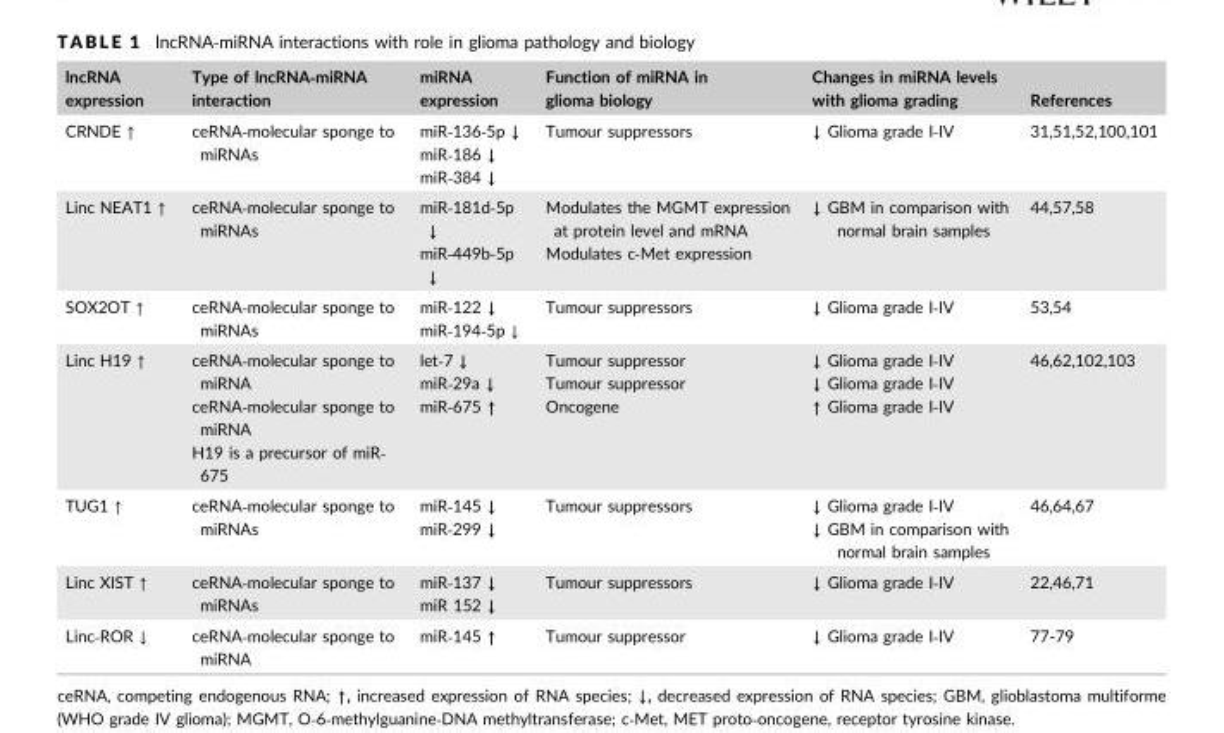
<table><thead><tr><td>lncRNA expression</td><td>Type of lncRNA‐miRNA interaction</td><td>miRNA expression</td><td>Function of miRNA in glioma biology</td><td>Changes in miRNA levels with glioma grading</td><td>References</td></tr></thead><tbody><tr><td>CRNDE ↑</td><td>ceRNA‐molecular sponge to miRNAs</td><td>miR‐136‐5p ↓ miR‐186 ↓ miR‐384 ↓</td><td>Tumour suppressors</td><td>↓ Glioma grade I‐IV</td><td>31,51,52,100,101</td></tr><tr><td>Linc NEAT1 ↑</td><td>ceRNA‐molecular sponge to miRNAs</td><td>miR‐181d‐5p ↓ miR‐449b‐5p ↓</td><td>Modulates the MGMT expression at protein level and mRNA Modulates c‐Met expression</td><td>↓ GBM in comparison with normal brain samples</td><td>44,57,58</td></tr><tr><td>SOX2OT ↑</td><td>ceRNA‐molecular sponge to miRNAs</td><td>miR‐122 ↓ miR‐194‐5p ↓</td><td>Tumour suppressors</td><td>↓ Glioma grade I‐IV</td><td>53,54</td></tr><tr><td>Linc H19 ↑</td><td>ceRNA‐molecular sponge to miRNA ceRNA‐molecular sponge to miRNA H19 is a precursor of miR‐ 675</td><td>let‐7 ↓ miR‐29a ↓ miR‐675 ↑</td><td>Tumour suppressor Tumour suppressor Oncogene</td><td>↓ Glioma grade I‐IV ↓ Glioma grade I‐IV ↑ Glioma grade I‐IV</td><td>46,62,102,103</td></tr><tr><td>TUG1 ↑</td><td>ceRNA‐molecular sponge to miRNAs</td><td>miR‐145 ↓ miR‐299 ↓</td><td>Tumour suppressors</td><td>↓ Glioma grade I‐IV ↓ GBM in comparison with normal brain samples</td><td>46,64,67</td></tr><tr><td>Linc XIST ↑</td><td>ceRNA‐molecular sponge to miRNAs</td><td>miR‐137 ↓ miR 152 ↓</td><td>Tumour suppressors</td><td>↓ Glioma grade I‐IV</td><td>22,46,71</td></tr><tr><td>Linc‐ROR ↓</td><td>ceRNA‐molecular sponge to miRNA</td><td>miR‐145 ↑</td><td>Tumour suppressor</td><td>↓ Glioma grade I‐IV</td><td>77-79</td></tr></tbody></table>